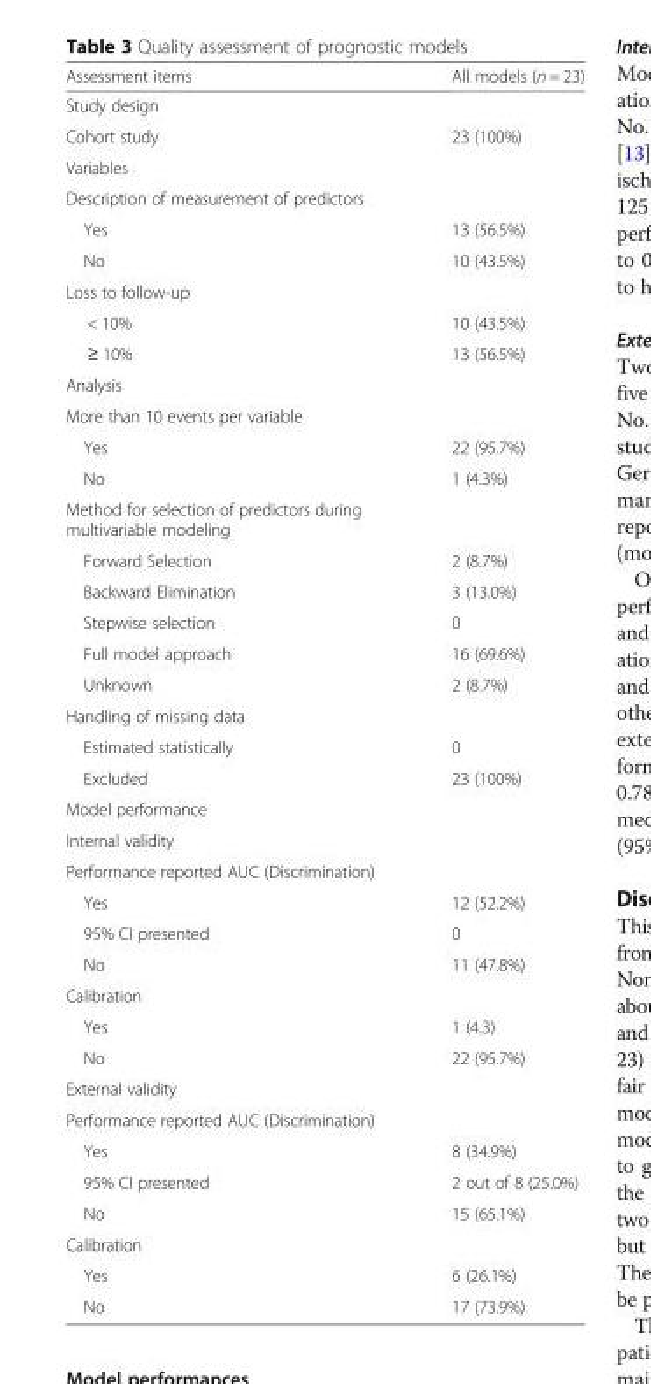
<table><thead><tr><td>Assessment items</td><td>All models (n = 23)</td></tr></thead><tbody><tr><td colspan="2">Study design</td></tr><tr><td>Cohort study</td><td>23 (100%)</td></tr><tr><td colspan="2">Variables</td></tr><tr><td colspan="2">Description of measurement of predictors</td></tr><tr><td>Yes</td><td>13 (56.5%)</td></tr><tr><td>No</td><td>10 (43.5%)</td></tr><tr><td colspan="2">Loss to follow-up</td></tr><tr><td>&lt; 10%</td><td>10 (43.5%)</td></tr><tr><td>≥ 10%</td><td>13 (56.5%)</td></tr><tr><td colspan="2">Analysis</td></tr><tr><td colspan="2">More than 10 events per variable</td></tr><tr><td>Yes</td><td>22 (95.7%)</td></tr><tr><td>No</td><td>1 (4.3%)</td></tr><tr><td colspan="2">Method for selection of predictors during multivariable modeling</td></tr><tr><td>Forward Selection</td><td>2 (8.7%)</td></tr><tr><td>Backward Elimination</td><td>3 (13.0%)</td></tr><tr><td>Stepwise selection</td><td>0</td></tr><tr><td>Full model approach</td><td>16 (69.6%)</td></tr><tr><td>Unknown</td><td>2 (8.7%)</td></tr><tr><td colspan="2">Handling of missing data</td></tr><tr><td>Estimated statistically</td><td>0</td></tr><tr><td>Excluded</td><td>23 (100%)</td></tr><tr><td colspan="2">Model performance</td></tr><tr><td colspan="2">Internal validity</td></tr><tr><td colspan="2">Performance reported AUC (Discrimination)</td></tr><tr><td>Yes</td><td>12 (52.2%)</td></tr><tr><td>95% CI presented</td><td>0</td></tr><tr><td>No</td><td>11 (47.8%)</td></tr><tr><td colspan="2">Calibration</td></tr><tr><td>Yes</td><td>1 (4.3)</td></tr><tr><td>No</td><td>22 (95.7%)</td></tr><tr><td colspan="2">External validity</td></tr><tr><td colspan="2">Performance reported AUC (Discrimination)</td></tr><tr><td>Yes</td><td>8 (34.9%)</td></tr><tr><td>95% CI presented</td><td>2 out of 8 (25.0%)</td></tr><tr><td>No</td><td>15 (65.1%)</td></tr><tr><td colspan="2">Calibration</td></tr><tr><td>Yes</td><td>6 (26.1%)</td></tr><tr><td>No</td><td>17 (73.9%)</td></tr></tbody></table>